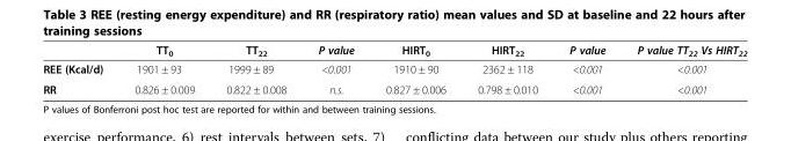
<table><thead><tr><td></td><td>TT<sub>0</sub></td><td>TT<sub>22</sub></td><td>P value</td><td>HIRT<sub>0</sub></td><td>HIRT<sub>22</sub></td><td>P value</td><td>P value TT<sub>22</sub> Vs HIRT<sub>22</sub></td></tr></thead><tbody><tr><td>REE (Kcal/d)</td><td>1901 ± 93</td><td>1999 ± 89</td><td>&lt;0.001</td><td>1910 ± 90</td><td>2362 ± 118</td><td>&lt;0.001</td><td>&lt;0.001</td></tr><tr><td>RR</td><td>0.826 ± 0.009</td><td>0.822 ± 0.008</td><td>n.s.</td><td>0.827 ± 0.006</td><td>0.798 ± 0.010</td><td>&lt;0.001</td><td>&lt;0.001</td></tr></tbody></table>